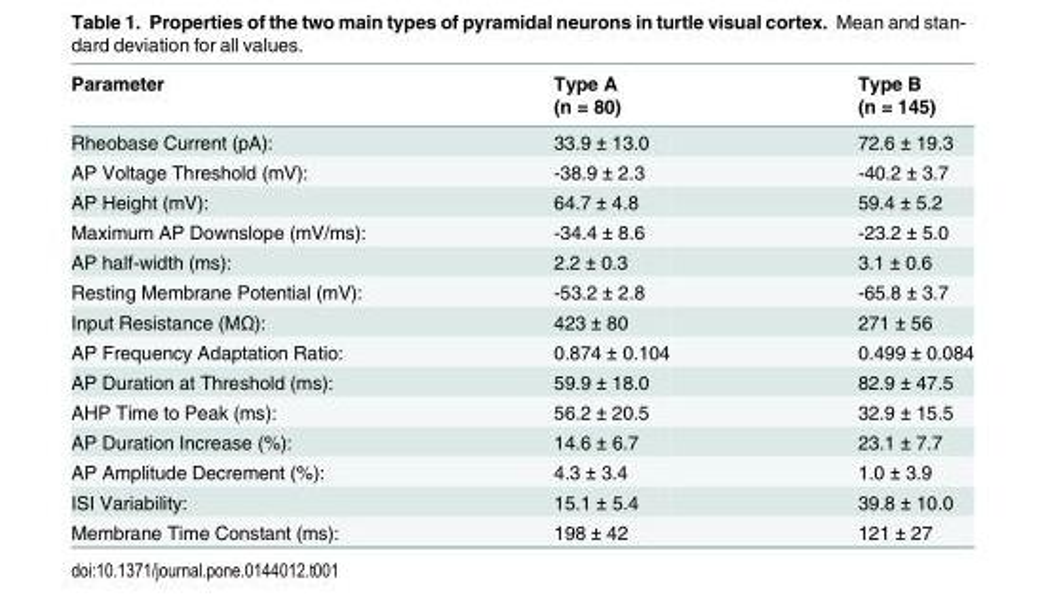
<table><thead><tr><td rowspan="2">Parameter</td><td rowspan="2">Type A (n = 80)</td><td rowspan="2">Type B (n = 145)</td></tr><tr></tr></thead><tbody><tr><td>Rheobase Current (pA):</td><td>33.9 ± 13.0</td><td>72.6 ± 19.3</td></tr><tr><td>AP Voltage Threshold (mV):</td><td>-38.9 ± 2.3</td><td>-40.2 ± 3.7</td></tr><tr><td>AP Height (mV):</td><td>64.7 ± 4.8</td><td>59.4 ± 5.2</td></tr><tr><td>Maximum AP Downslope (mV/ms):</td><td>-34.4 ± 8.6</td><td>-23.2 ± 5.0</td></tr><tr><td>AP half-width (ms):</td><td>2.2 ± 0.3</td><td>3.1 ± 0.6</td></tr><tr><td>Resting Membrane Potential (mV):</td><td>-53.2 ± 2.8</td><td>-65.8 ± 3.7</td></tr><tr><td>Input Resistance (MΩ):</td><td>423 ± 80</td><td>271 ± 56</td></tr><tr><td>AP Frequency Adaptation Ratio:</td><td>0.874 ± 0.104</td><td>0.499 ± 0.084</td></tr><tr><td>AP Duration at Threshold (ms):</td><td>59.9 ± 18.0</td><td>82.9 ± 47.5</td></tr><tr><td>AHP Time to Peak (ms):</td><td>56.2 ± 20.5</td><td>32.9 ± 15.5</td></tr><tr><td>AP Duration Increase (%):</td><td>14.6 ± 6.7</td><td>23.1 ± 7.7</td></tr><tr><td>AP Amplitude Decrement (%):</td><td>4.3 ± 3.4</td><td>1.0 ± 3.9</td></tr><tr><td>ISI Variability:</td><td>15.1 ± 5.4</td><td>39.8 ± 10.0</td></tr><tr><td>Membrane Time Constant (ms):</td><td>198 ± 42</td><td>121 ± 27</td></tr></tbody></table>